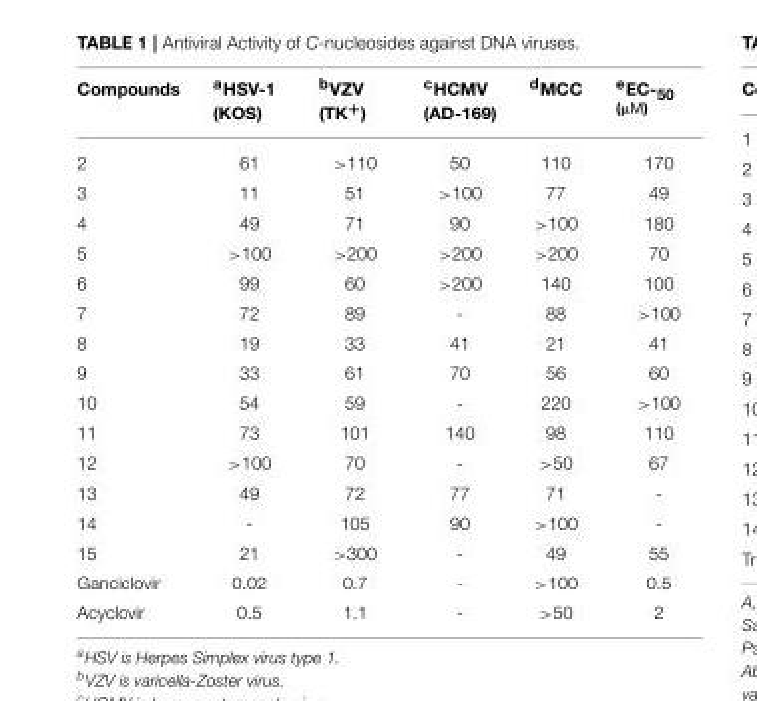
<table><thead><tr><td>Compounds</td><td><sup>a</sup>HSV-1 (KOS)</td><td><sup>b</sup>VZV (TK<sup>+</sup>)</td><td><sup>c</sup>HCMV (AD-169)</td><td><sup>d</sup>MCC</td><td><sup>e</sup>EC-<sub>50</sub> <sup>(µM)</sup></td></tr></thead><tbody><tr><td>2</td><td>61</td><td>&gt;110</td><td>50</td><td>110</td><td>170</td></tr><tr><td>3</td><td>11</td><td>51</td><td>&gt;100</td><td>77</td><td>49</td></tr><tr><td>4</td><td>49</td><td>71</td><td>90</td><td>&gt;100</td><td>180</td></tr><tr><td>5</td><td>&gt;100</td><td>&gt;200</td><td>&gt;200</td><td>&gt;200</td><td>70</td></tr><tr><td>6</td><td>99</td><td>60</td><td>&gt;200</td><td>140</td><td>100</td></tr><tr><td>7</td><td>72</td><td>89</td><td>-</td><td>88</td><td>&gt;100</td></tr><tr><td>8</td><td>19</td><td>33</td><td>41</td><td>21</td><td>41</td></tr><tr><td>9</td><td>33</td><td>61</td><td>70</td><td>56</td><td>60</td></tr><tr><td>10</td><td>54</td><td>59</td><td>-</td><td>220</td><td>&gt;100</td></tr><tr><td>11</td><td>73</td><td>101</td><td>140</td><td>98</td><td>110</td></tr><tr><td>12</td><td>&gt;100</td><td>70</td><td>-</td><td>&gt;50</td><td>67</td></tr><tr><td>13</td><td>49</td><td>72</td><td>77</td><td>71</td><td>-</td></tr><tr><td>14</td><td>-</td><td>105</td><td>90</td><td>&gt;100</td><td>-</td></tr><tr><td>15</td><td>21</td><td>&gt;300</td><td>-</td><td>49</td><td>55</td></tr><tr><td>Ganciclovir</td><td>0.02</td><td>0.7</td><td>-</td><td>&gt;100</td><td>0.5</td></tr><tr><td>Acyclovir</td><td>0.5</td><td>1.1</td><td>-</td><td>&gt;50</td><td>2</td></tr></tbody></table>